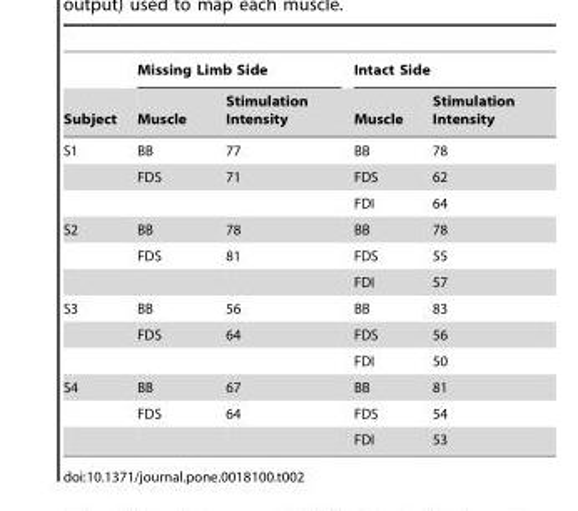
<table><thead><tr><td rowspan="2">Subject</td><td colspan="2">Missing Limb Side</td><td colspan="2">Intact Side</td></tr><tr><td>Muscle</td><td>Stimulation Intensity</td><td>Muscle</td><td>Stimulation Intensity</td></tr></thead><tbody><tr><td rowspan="3">S1</td><td>BB</td><td>77</td><td>BB</td><td>78</td></tr><tr><td>FDS</td><td>71</td><td>FDS</td><td>62</td></tr><tr><td></td><td></td><td>FDI</td><td>64</td></tr><tr><td rowspan="3">S2</td><td>BB</td><td>78</td><td>BB</td><td>78</td></tr><tr><td>FDS</td><td>81</td><td>FDS</td><td>55</td></tr><tr><td></td><td></td><td>FDI</td><td>57</td></tr><tr><td rowspan="3">S3</td><td>BB</td><td>56</td><td>BB</td><td>83</td></tr><tr><td>FDS</td><td>64</td><td>FDS</td><td>56</td></tr><tr><td></td><td></td><td>FDI</td><td>50</td></tr><tr><td rowspan="3">S4</td><td>BB</td><td>67</td><td>BB</td><td>81</td></tr><tr><td>FDS</td><td>64</td><td>FDS</td><td>54</td></tr><tr><td></td><td></td><td>FDI</td><td>53</td></tr></tbody></table>